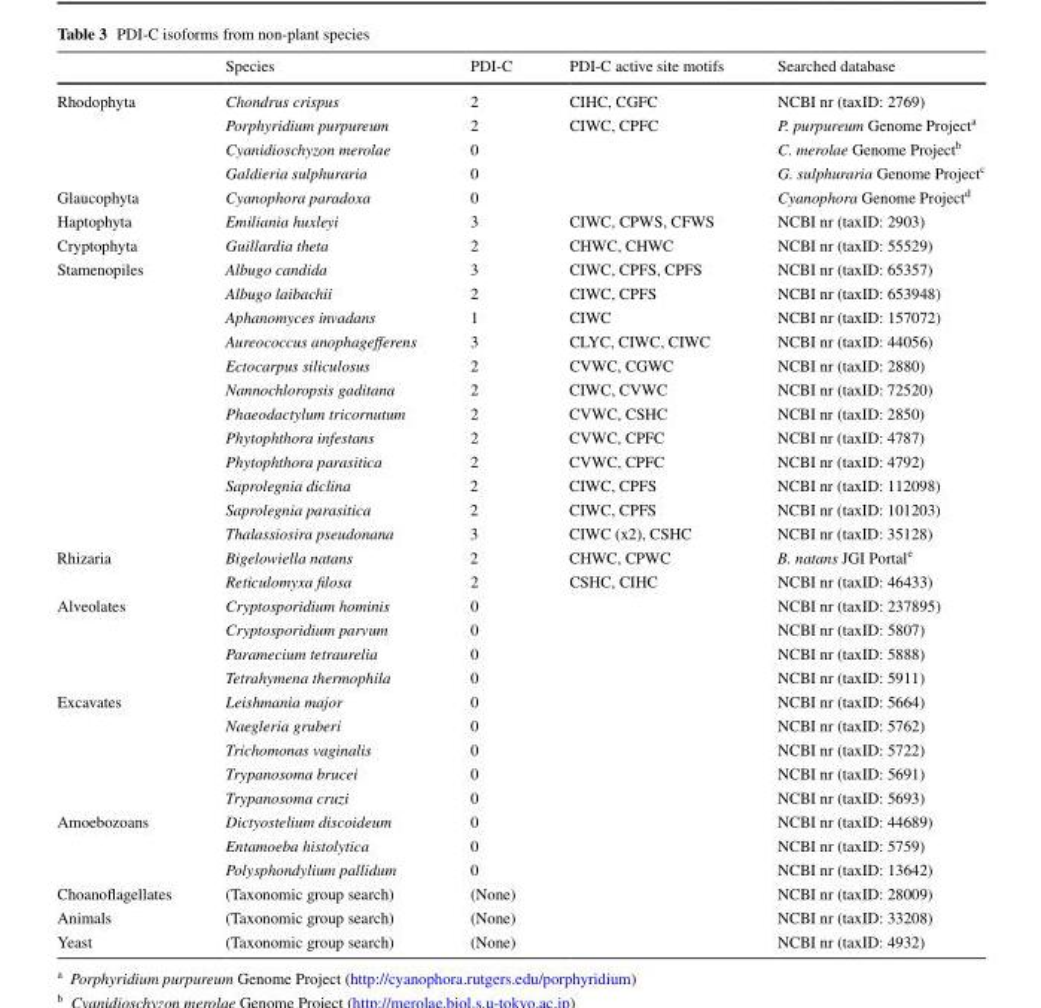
<table><thead><tr><td></td><td>Species</td><td>PDI-C</td><td>PDI-C active site motifs</td><td>Searched database</td></tr></thead><tbody><tr><td rowspan="4">Rhodophyta</td><td>Chondrus crispus</td><td>2</td><td>CIHC, CGFC</td><td>NCBI nr (taxID: 2769)</td></tr><tr><td>Porphyridium purpureum</td><td>2</td><td rowspan="3">CIWC, CPFC</td><td>P. purpureum Genome Project<sup>a</sup></td></tr><tr><td>Cyanidioschyzon merolae</td><td>0</td><td>C. merolae Genome Project<sup>b</sup></td></tr><tr><td>Galdieria sulphuraria</td><td>0</td><td>G. sulphuraria Genome Project<sup>c</sup></td></tr><tr><td>Glaucophyta</td><td>Cyanophora paradoxa</td><td>0</td><td></td><td>Cyanophora Genome Project<sup>d</sup></td></tr><tr><td>Haptophyta</td><td>Emiliania huxleyi</td><td>3</td><td>CIWC, CPWS, CFWS</td><td>NCBI nr (taxID: 2903)</td></tr><tr><td>Cryptophyta</td><td>Guillardia theta</td><td>2</td><td>CHWC, CHWC</td><td>NCBI nr (taxID: 55529)</td></tr><tr><td rowspan="12">Stamenopiles</td><td>Albugo candida</td><td>3</td><td>CIWC, CPFS, CPFS</td><td>NCBI nr (taxID: 65357)</td></tr><tr><td>Albugo laibachii</td><td>2</td><td>CIWC, CPFS</td><td>NCBI nr (taxID: 653948)</td></tr><tr><td>Aphanomyces invadans</td><td>1</td><td>CIWC</td><td>NCBI nr (taxID: 157072)</td></tr><tr><td>Aureococcus anophagefferens</td><td>3</td><td>CLYC, CIWC, CIWC</td><td>NCBI nr (taxID: 44056)</td></tr><tr><td>Ectocarpus siliculosus</td><td>2</td><td>CVWC, CGWC</td><td>NCBI nr (taxID: 2880)</td></tr><tr><td>Nannochloropsis gaditana</td><td>2</td><td>CIWC, CVWC</td><td>NCBI nr (taxID: 72520)</td></tr><tr><td>Phaeodactylum tricornutum</td><td>2</td><td>CVWC, CSHC</td><td>NCBI nr (taxID: 2850)</td></tr><tr><td>Phytophthora infestans</td><td>2</td><td>CVWC, CPFC</td><td>NCBI nr (taxID: 4787)</td></tr><tr><td>Phytophthora parasitica</td><td>2</td><td>CVWC, CPFC</td><td>NCBI nr (taxID: 4792)</td></tr><tr><td>Saprolegnia diclina</td><td>2</td><td>CIWC, CPFS</td><td>NCBI nr (taxID: 112098)</td></tr><tr><td>Saprolegnia parasitica</td><td>2</td><td>CIWC, CPFS</td><td>NCBI nr (taxID: 101203)</td></tr><tr><td>Thalassiosira pseudonana</td><td>3</td><td>CIWC (x2), CSHC</td><td>NCBI nr (taxID: 35128)</td></tr><tr><td rowspan="2">Rhizaria</td><td>Bigelowiella natans</td><td>2</td><td>CHWC, CPWC</td><td>B. natans JGI Portal<sup>e</sup></td></tr><tr><td>Reticulomyxa filosa</td><td>2</td><td>CSHC, CIHC</td><td>NCBI nr (taxID: 46433)</td></tr><tr><td rowspan="4">Alveolates</td><td>Cryptosporidium hominis</td><td>0</td><td></td><td>NCBI nr (taxID: 237895)</td></tr><tr><td>Cryptosporidium parvum</td><td>0</td><td></td><td>NCBI nr (taxID: 5807)</td></tr><tr><td>Paramecium tetraurelia</td><td>0</td><td></td><td>NCBI nr (taxID: 5888)</td></tr><tr><td>Tetrahymena thermophila</td><td>0</td><td></td><td>NCBI nr (taxID: 5911)</td></tr><tr><td rowspan="5">Excavates</td><td>Leishmania major</td><td>0</td><td></td><td>NCBI nr (taxID: 5664)</td></tr><tr><td>Naegleria gruberi</td><td>0</td><td></td><td>NCBI nr (taxID: 5762)</td></tr><tr><td>Trichomonas vaginalis</td><td>0</td><td></td><td>NCBI nr (taxID: 5722)</td></tr><tr><td>Trypanosoma brucei</td><td>0</td><td></td><td>NCBI nr (taxID: 5691)</td></tr><tr><td>Trypanosoma cruzi</td><td>0</td><td></td><td>NCBI nr (taxID: 5693)</td></tr><tr><td rowspan="3">Amoebozoans</td><td>Dictyostelium discoideum</td><td>0</td><td></td><td>NCBI nr (taxID: 44689)</td></tr><tr><td>Entamoeba histolytica</td><td>0</td><td></td><td>NCBI nr (taxID: 5759)</td></tr><tr><td>Polysphondylium pallidum</td><td>0</td><td></td><td>NCBI nr (taxID: 13642)</td></tr><tr><td>Choanoflagellates</td><td>(Taxonomic group search)</td><td>(None)</td><td></td><td>NCBI nr (taxID: 28009)</td></tr><tr><td>Animals</td><td>(Taxonomic group search)</td><td>(None)</td><td></td><td>NCBI nr (taxID: 33208)</td></tr><tr><td>Yeast</td><td>(Taxonomic group search)</td><td>(None)</td><td></td><td>NCBI nr (taxID: 4932)</td></tr></tbody></table>